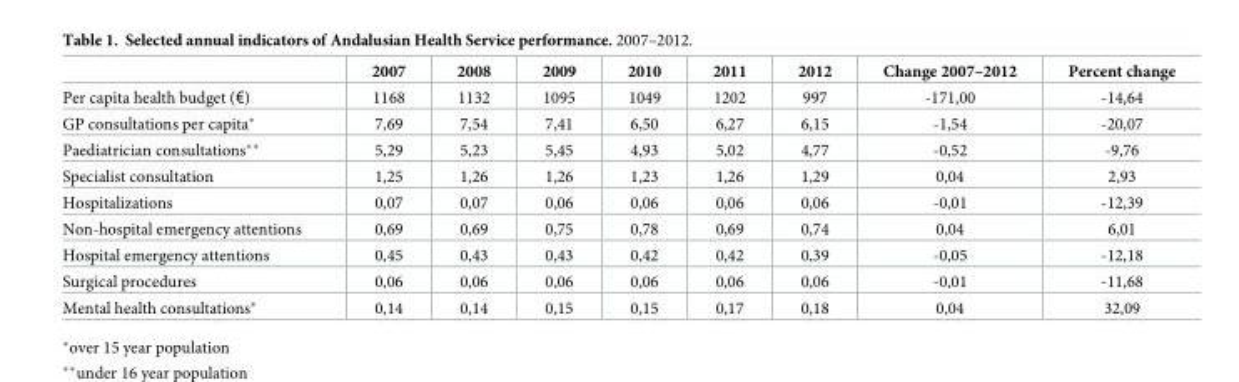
<table><thead><tr><td></td><td>2007</td><td>2008</td><td>2009</td><td>2010</td><td>2011</td><td>2012</td><td>Change 2007–2012</td><td>Percent change</td></tr></thead><tbody><tr><td>Per capita health budget (€)</td><td>1168</td><td>1132</td><td>1095</td><td>1049</td><td>1202</td><td>997</td><td>-171,00</td><td>-14,64</td></tr><tr><td>GP consultations per capita*</td><td>7,69</td><td>7,54</td><td>7,41</td><td>6,50</td><td>6,27</td><td>6,15</td><td>-1,54</td><td>-20,07</td></tr><tr><td>Paediatrician consultations**</td><td>5,29</td><td>5,23</td><td>5,45</td><td>4,93</td><td>5,02</td><td>4,77</td><td>-0,52</td><td>-9,76</td></tr><tr><td>Specialist consultation</td><td>1,25</td><td>1,26</td><td>1,26</td><td>1,23</td><td>1,26</td><td>1,29</td><td>0,04</td><td>2,93</td></tr><tr><td>Hospitalizations</td><td>0,07</td><td>0,07</td><td>0,06</td><td>0,06</td><td>0,06</td><td>0,06</td><td>-0,01</td><td>-12,39</td></tr><tr><td>Non-hospital emergency attentions</td><td>0,69</td><td>0,69</td><td>0,75</td><td>0,78</td><td>0,69</td><td>0,74</td><td>0,04</td><td>6,01</td></tr><tr><td>Hospital emergency attentions</td><td>0,45</td><td>0,43</td><td>0,43</td><td>0,42</td><td>0,42</td><td>0,39</td><td>-0,05</td><td>-12,18</td></tr><tr><td>Surgical procedures</td><td>0,06</td><td>0,06</td><td>0,06</td><td>0,06</td><td>0,06</td><td>0,06</td><td>-0,01</td><td>-11,68</td></tr><tr><td>Mental health consultations*</td><td>0,14</td><td>0,14</td><td>0,15</td><td>0,15</td><td>0,17</td><td>0,18</td><td>0,04</td><td>32,09</td></tr></tbody></table>